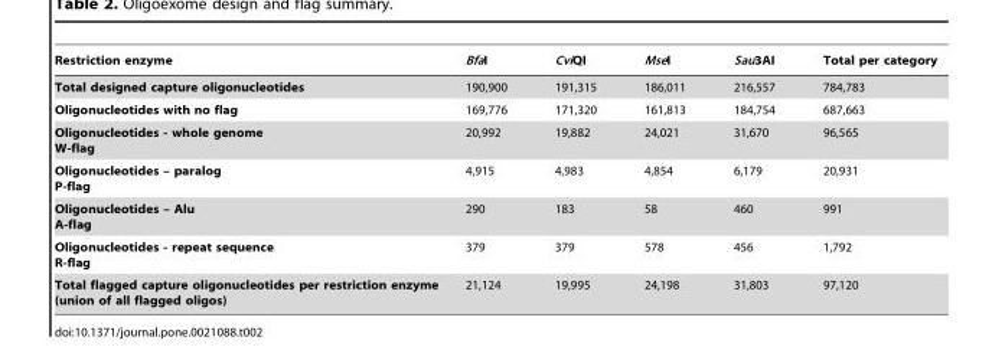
<table><thead><tr><td>Restriction enzyme</td><td>BfaI</td><td>CviQI</td><td>MseI</td><td>Sau3AI</td><td>Total per category</td></tr></thead><tbody><tr><td>Total designed capture oligonucleotides</td><td>190,900</td><td>191,315</td><td>186,011</td><td>216,557</td><td>784,783</td></tr><tr><td>Oligonucleotides with no flag</td><td>169,776</td><td>171,320</td><td>161,813</td><td>184,754</td><td>687,663</td></tr><tr><td>Oligonucleotides - whole genome W-flag</td><td>20,992</td><td>19,882</td><td>24,021</td><td>31,670</td><td>96,565</td></tr><tr><td>Oligonucleotides – paralog P-flag</td><td>4,915</td><td>4,983</td><td>4,854</td><td>6,179</td><td>20,931</td></tr><tr><td>Oligonucleotides – Alu A-flag</td><td>290</td><td>183</td><td>58</td><td>460</td><td>991</td></tr><tr><td>Oligonucleotides - repeat sequence R-flag</td><td>379</td><td>379</td><td>578</td><td>456</td><td>1,792</td></tr><tr><td>Total flagged capture oligonucleotides per restriction enzyme (union of all flagged oligos)</td><td>21,124</td><td>19,995</td><td>24,198</td><td>31,803</td><td>97,120</td></tr></tbody></table>